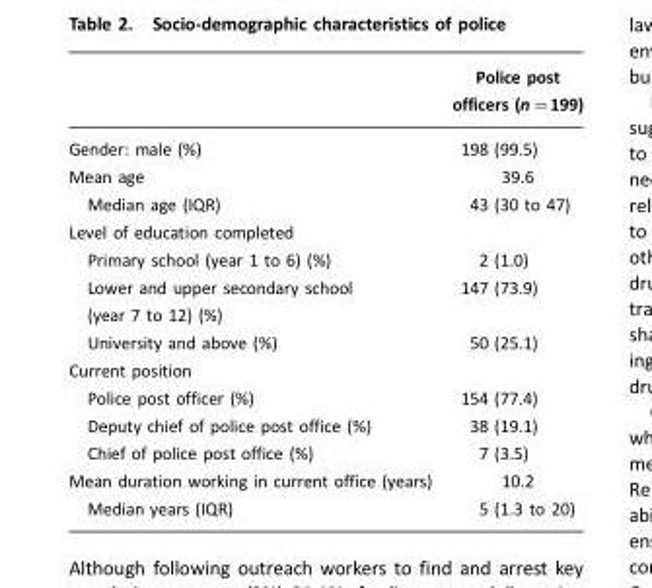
<table><thead><tr><td></td><td>Police post officers (n=199)</td></tr></thead><tbody><tr><td>Gender: male (%)</td><td>198 (99.5)</td></tr><tr><td>Mean age</td><td>39.6</td></tr><tr><td>Median age (IQR)</td><td>43 (30 to 47)</td></tr><tr><td colspan="2">Level of education completed</td></tr><tr><td>Primary school (year 1 to 6) (%)</td><td>2 (1.0)</td></tr><tr><td>Lower and upper secondary school (year 7 to 12) (%)</td><td>147 (73.9)</td></tr><tr><td>University and above (%)</td><td>50 (25.1)</td></tr><tr><td colspan="2">Current position</td></tr><tr><td>Police post officer (%)</td><td>154 (77.4)</td></tr><tr><td>Deputy chief of police post office (%)</td><td>38 (19.1)</td></tr><tr><td>Chief of police post office (%)</td><td>7 (3.5)</td></tr><tr><td>Mean duration working in current office (years)</td><td>10.2</td></tr><tr><td>Median years (IQR)</td><td>5 (1.3 to 20)</td></tr></tbody></table>